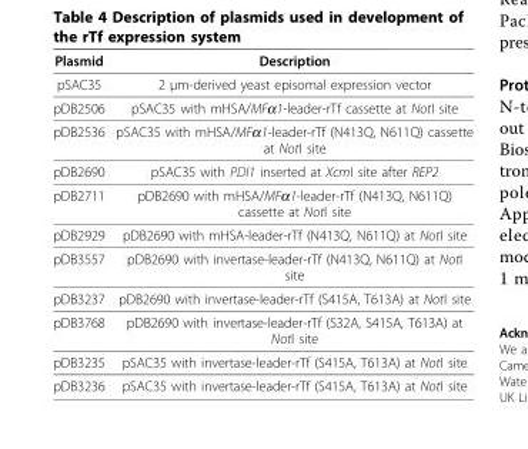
<table><thead><tr><td>Plasmid</td><td>Description</td></tr></thead><tbody><tr><td>pSAC35</td><td>2 μm-derived yeast episomal expression vector</td></tr><tr><td>pDB2506</td><td>pSAC35 with mHSA/MFα1-leader-rTf cassette at NotI site</td></tr><tr><td>pDB2536</td><td>pSAC35 with mHSA/MFα1-leader-rTf (N413Q, N611Q) cassette at NotI site</td></tr><tr><td>pDB2690</td><td>pSAC35 with PDI1 inserted at XcmI site after REP2</td></tr><tr><td>pDB2711</td><td>pDB2690 with mHSA/MFα1-leader-rTf (N413Q, N611Q) cassette at NotI site</td></tr><tr><td>pDB2929</td><td>pDB2690 with mHSA-leader-rTf (N413Q, N611Q) at NotI site</td></tr><tr><td>pDB3557</td><td>pDB2690 with invertase-leader-rTf (N413Q, N611Q) at NotI site</td></tr><tr><td>pDB3237</td><td>pDB2690 with invertase-leader-rTf (S415A, T613A) at NotI site</td></tr><tr><td>pDB3768</td><td>pDB2690 with invertase-leader-rTf (S32A, S415A, T613A) at NotI site</td></tr><tr><td>pDB3235</td><td>pSAC35 with invertase-leader-rTf (S415A, T613A) at NotI site</td></tr><tr><td>pDB3236</td><td>pSAC35 with invertase-leader-rTf (S415A, T613A) at NotI site</td></tr></tbody></table>